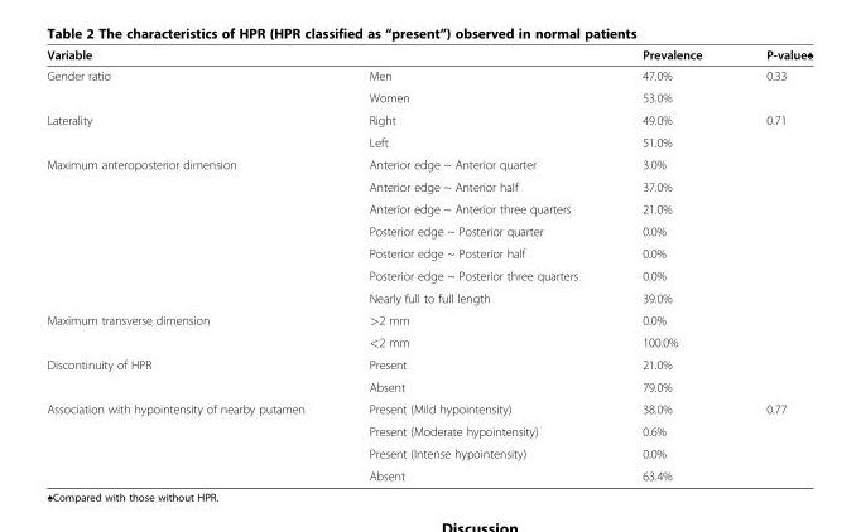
<table><thead><tr><td colspan="2">Variable</td><td rowspan="2">Prevalence 47.0%</td><td rowspan="2">P-value♠ 0.33</td></tr><tr><td>Gender ratio</td><td>Men</td></tr></thead><tbody><tr><td></td><td>Women</td><td>53.0%</td><td></td></tr><tr><td rowspan="2">Laterality</td><td>Right</td><td>49.0%</td><td>0.71</td></tr><tr><td>Left</td><td>51.0%</td><td></td></tr><tr><td rowspan="7">Maximum anteroposterior dimension</td><td>Anterior edge ~ Anterior quarter</td><td>3.0%</td><td></td></tr><tr><td>Anterior edge ~ Anterior half</td><td>37.0%</td><td></td></tr><tr><td>Anterior edge ~ Anterior three quarters</td><td>21.0%</td><td></td></tr><tr><td>Posterior edge ~ Posterior quarter</td><td>0.0%</td><td></td></tr><tr><td>Posterior edge ~ Posterior half</td><td>0.0%</td><td></td></tr><tr><td>Posterior edge ~ Posterior three quarters</td><td>0.0%</td><td></td></tr><tr><td>Nearly full to full length</td><td>39.0%</td><td></td></tr><tr><td rowspan="2">Maximum transverse dimension</td><td>&gt;2 mm</td><td>0.0%</td><td></td></tr><tr><td>&lt;2 mm</td><td>100.0%</td><td></td></tr><tr><td rowspan="2">Discontinuity of HPR</td><td>Present</td><td>21.0%</td><td></td></tr><tr><td>Absent</td><td>79.0%</td><td></td></tr><tr><td rowspan="4">Association with hypointensity of nearby putamen</td><td>Present (Mild hypointensity)</td><td>38.0%</td><td>0.77</td></tr><tr><td>Present (Moderate hypointensity)</td><td>0.6%</td><td></td></tr><tr><td>Present (Intense hypointensity)</td><td>0.0%</td><td></td></tr><tr><td>Absent</td><td>63.4%</td><td></td></tr></tbody></table>